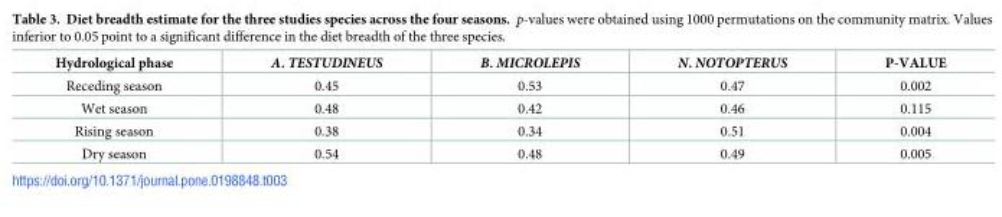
<table><thead><tr><td>Hydrological phase</td><td>A. TESTUDINEUS</td><td>B. MICROLEPIS</td><td>N. NOTOPTERUS</td><td>P-VALUE</td></tr></thead><tbody><tr><td>Receding season</td><td>0.45</td><td>0.53</td><td>0.47</td><td>0.002</td></tr><tr><td>Wet season</td><td>0.48</td><td>0.42</td><td>0.46</td><td>0.115</td></tr><tr><td>Rising season</td><td>0.38</td><td>0.34</td><td>0.51</td><td>0.004</td></tr><tr><td>Dry season</td><td>0.54</td><td>0.48</td><td>0.49</td><td>0.005</td></tr></tbody></table>